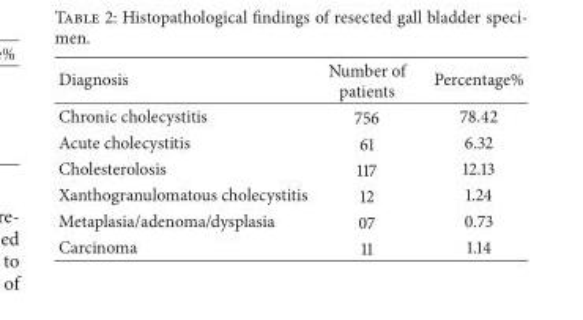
<table><thead><tr><td>Diagnosis</td><td>Number of patients</td><td>Percentage%</td></tr></thead><tbody><tr><td>Chronic cholecystitis</td><td>756</td><td>78.42</td></tr><tr><td>Acute cholecystitis</td><td>61</td><td>6.32</td></tr><tr><td>Cholesterolosis</td><td>117</td><td>12.13</td></tr><tr><td>Xanthogranulomatous cholecystitis</td><td>12</td><td>1.24</td></tr><tr><td>Metaplasia/adenoma/dysplasia</td><td>07</td><td>0.73</td></tr><tr><td>Carcinoma</td><td>11</td><td>1.14</td></tr></tbody></table>